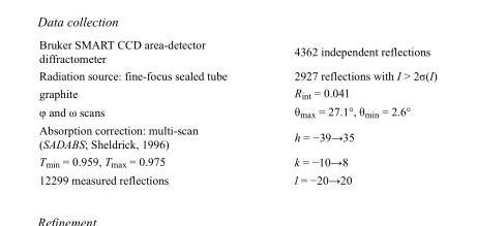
<table><tbody><tr><td>Bruker SMART CCD area-detector diffractometer</td><td>4362 independent reflections</td></tr><tr><td>Radiation source: fine-focus sealed tube</td><td>2927 reflections with I &gt; 2σ(I)</td></tr><tr><td>graphite</td><td>R<sub>int</sub> = 0.041</td></tr><tr><td>φ and ω scans</td><td>θ<sub>max</sub> = 27.1°, θ<sub>min</sub> = 2.6°</td></tr><tr><td>Absorption correction: multi-scan (SADABS; Sheldrick, 1996)</td><td>h = −39→35</td></tr><tr><td>T<sub>min</sub> = 0.959, T<sub>max</sub> = 0.975</td><td>k = −10→8</td></tr><tr><td>12299 measured reflections</td><td>l = −20→20</td></tr></tbody></table>